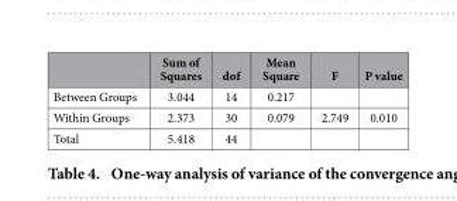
<table><thead><tr><td></td><td>Sum of Squares</td><td>dof</td><td>Mean Square</td><td>F</td><td>P value</td></tr></thead><tbody><tr><td>Between Groups</td><td>3.044</td><td>14</td><td>0.217</td><td></td><td></td></tr><tr><td>Within Groups</td><td>2.373</td><td>30</td><td>0.079</td><td>2.749</td><td>0.010</td></tr><tr><td>Total</td><td>5.418</td><td>44</td><td></td><td></td><td></td></tr></tbody></table>